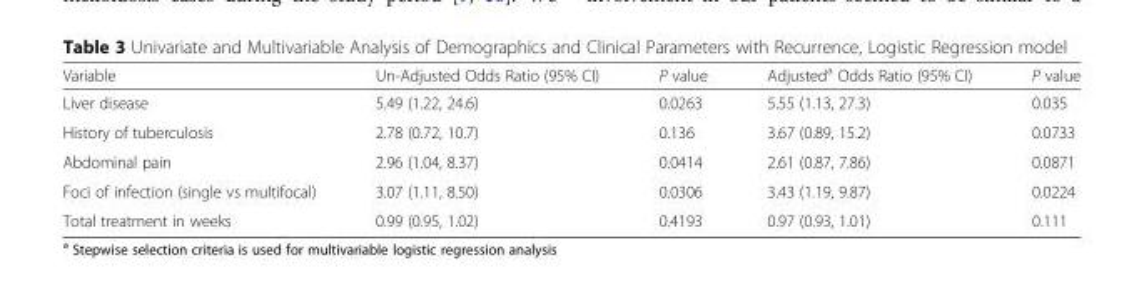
<table><thead><tr><td>Variable</td><td>Un-Adjusted Odds Ratio (95% CI)</td><td>P value</td><td>Adjusted<sup>a</sup> Odds Ratio (95% CI)</td><td>P value</td></tr></thead><tbody><tr><td>Liver disease</td><td>5.49 (1.22, 24.6)</td><td>0.0263</td><td>5.55 (1.13, 27.3)</td><td>0.035</td></tr><tr><td>History of tuberculosis</td><td>2.78 (0.72, 10.7)</td><td>0.136</td><td>3.67 (0.89, 15.2)</td><td>0.0733</td></tr><tr><td>Abdominal pain</td><td>2.96 (1.04, 8.37)</td><td>0.0414</td><td>2.61 (0.87, 7.86)</td><td>0.0871</td></tr><tr><td>Foci of infection (single vs multifocal)</td><td>3.07 (1.11, 8.50)</td><td>0.0306</td><td>3.43 (1.19, 9.87)</td><td>0.0224</td></tr><tr><td>Total treatment in weeks</td><td>0.99 (0.95, 1.02)</td><td>0.4193</td><td>0.97 (0.93, 1.01)</td><td>0.111</td></tr></tbody></table>